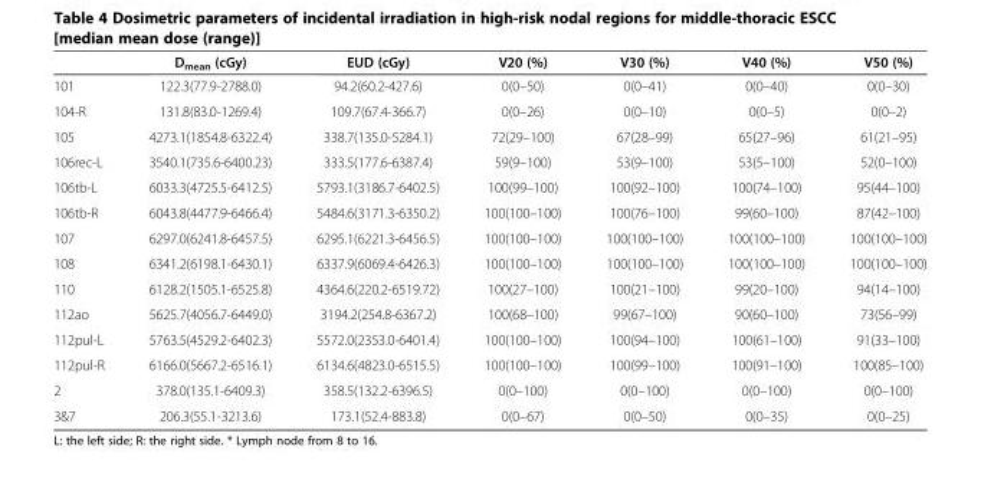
<table><thead><tr><td></td><td>D<sub>mean</sub> (cGy)</td><td>EUD (cGy)</td><td>V20 (%)</td><td>V30 (%)</td><td>V40 (%)</td><td>V50 (%)</td></tr></thead><tbody><tr><td>101</td><td>122.3(77.9-2788.0)</td><td>94.2(60.2-427.6)</td><td>0(0–50)</td><td>0(0–41)</td><td>0(0–40)</td><td>0(0–30)</td></tr><tr><td>104-R</td><td>131.8(83.0-1269.4)</td><td>109.7(67.4-366.7)</td><td>0(0–26)</td><td>0(0–10)</td><td>0(0–5)</td><td>0(0–2)</td></tr><tr><td>105</td><td>4273.1(1854.8-6322.4)</td><td>338.7(135.0-5284.1)</td><td>72(29–100)</td><td>67(28–99)</td><td>65(27–96)</td><td>61(21–95)</td></tr><tr><td>106rec-L</td><td>3540.1(735.6-6400.23)</td><td>333.5(177.6-6387.4)</td><td>59(9–100)</td><td>53(9–100)</td><td>53(5–100)</td><td>52(0–100)</td></tr><tr><td>106tb-L</td><td>6033.3(4725.5-6412.5)</td><td>5793.1(3186.7-6402.5)</td><td>100(99–100)</td><td>100(92–100)</td><td>100(74–100)</td><td>95(44–100)</td></tr><tr><td>106tb-R</td><td>6043.8(4477.9-6466.4)</td><td>5484.6(3171.3-6350.2)</td><td>100(100–100)</td><td>100(76–100)</td><td>99(60–100)</td><td>87(42–100)</td></tr><tr><td>107</td><td>6297.0(6241.8-6457.5)</td><td>6295.1(6221.3-6456.5)</td><td>100(100–100)</td><td>100(100–100)</td><td>100(100–100)</td><td>100(100–100)</td></tr><tr><td>108</td><td>6341.2(6198.1-6430.1)</td><td>6337.9(6069.4-6426.3)</td><td>100(100–100)</td><td>100(100–100)</td><td>100(100–100)</td><td>100(100–100)</td></tr><tr><td>110</td><td>6128.2(1505.1-6525.8)</td><td>4364.6(220.2-6519.72)</td><td>100(27–100)</td><td>100(21–100)</td><td>99(20–100)</td><td>94(14–100)</td></tr><tr><td>112ao</td><td>5625.7(4056.7-6449.0)</td><td>3194.2(254.8-6367.2)</td><td>100(68–100)</td><td>99(67–100)</td><td>90(60–100)</td><td>73(56–99)</td></tr><tr><td>112pul-L</td><td>5763.5(4529.2-6402.3)</td><td>5572.0(2353.0-6401.4)</td><td>100(100–100)</td><td>100(94–100)</td><td>100(61–100)</td><td>91(33–100)</td></tr><tr><td>112pul-R</td><td>6166.0(5667.2-6516.1)</td><td>6134.6(4823.0-6515.5)</td><td>100(100–100)</td><td>100(99–100)</td><td>100(91–100)</td><td>100(85–100)</td></tr><tr><td>2</td><td>378.0(135.1-6409.3)</td><td>358.5(132.2-6396.5)</td><td>0(0–100)</td><td>0(0–100)</td><td>0(0–100)</td><td>0(0–100)</td></tr><tr><td>3&amp;7</td><td>206.3(55.1-3213.6)</td><td>173.1(52.4-883.8)</td><td>0(0–67)</td><td>0(0–50)</td><td>0(0–35)</td><td>0(0–25)</td></tr></tbody></table>